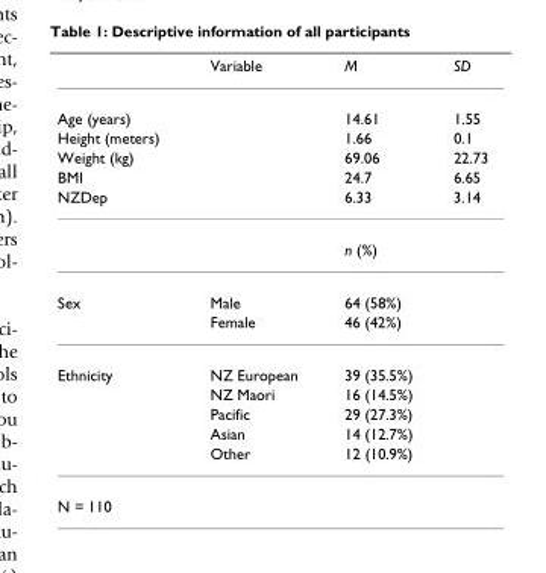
<table><thead><tr><td></td><td>Variable</td><td>M</td><td>SD</td></tr></thead><tbody><tr><td>Age (years)</td><td></td><td>14.61</td><td>1.55</td></tr><tr><td>Height (meters)</td><td></td><td>1.66</td><td>0.1</td></tr><tr><td>Weight (kg)</td><td></td><td>69.06</td><td>22.73</td></tr><tr><td>BMI</td><td></td><td>24.7</td><td>6.65</td></tr><tr><td rowspan="2">NZDep</td><td></td><td>6.33</td><td>3.14</td></tr><tr><td></td><td>n (%)</td><td></td></tr><tr><td rowspan="2">Sex</td><td>Male</td><td>64 (58%)</td><td></td></tr><tr><td>Female</td><td>46 (42%)</td><td></td></tr><tr><td rowspan="5">Ethnicity</td><td>NZ European</td><td>39 (35.5%)</td><td></td></tr><tr><td>NZ Maori</td><td>16 (14.5%)</td><td></td></tr><tr><td>Pacific</td><td>29 (27.3%)</td><td></td></tr><tr><td>Asian</td><td>14 (12.7%)</td><td></td></tr><tr><td>Other</td><td>12 (10.9%)</td><td></td></tr><tr><td>N = 110</td><td></td><td></td><td></td></tr></tbody></table>